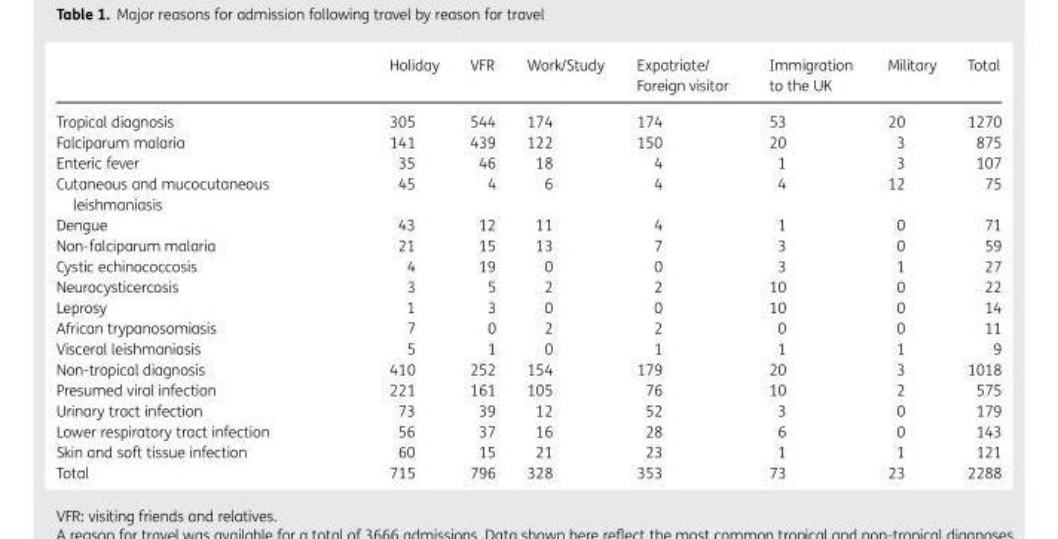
<table><thead><tr><td></td><td>Holiday</td><td>VFR</td><td>Work/Study</td><td>Expatriate/ Foreign visitor</td><td>Immigration to the UK</td><td>Military</td><td>Total</td></tr></thead><tbody><tr><td>Tropical diagnosis</td><td>305</td><td>544</td><td>174</td><td>174</td><td>53</td><td>20</td><td>1270</td></tr><tr><td>Falciparum malaria</td><td>141</td><td>439</td><td>122</td><td>150</td><td>20</td><td>3</td><td>875</td></tr><tr><td>Enteric fever</td><td>35</td><td>46</td><td>18</td><td>4</td><td>1</td><td>3</td><td>107</td></tr><tr><td>Cutaneous and mucocutaneous leishmaniasis</td><td>45</td><td>4</td><td>6</td><td>4</td><td>4</td><td>12</td><td>75</td></tr><tr><td>Dengue</td><td>43</td><td>12</td><td>11</td><td>4</td><td>1</td><td>0</td><td>71</td></tr><tr><td>Non-falciparum malaria</td><td>21</td><td>15</td><td>13</td><td>7</td><td>3</td><td>0</td><td>59</td></tr><tr><td>Cystic echinococcosis</td><td>4</td><td>19</td><td>0</td><td>0</td><td>3</td><td>1</td><td>27</td></tr><tr><td>Neurocysticercosis</td><td>3</td><td>5</td><td>2</td><td>2</td><td>10</td><td>0</td><td>22</td></tr><tr><td>Leprosy</td><td>1</td><td>3</td><td>0</td><td>0</td><td>10</td><td>0</td><td>14</td></tr><tr><td>African trypanosomiasis</td><td>7</td><td>0</td><td>2</td><td>2</td><td>0</td><td>0</td><td>11</td></tr><tr><td>Visceral leishmaniasis</td><td>5</td><td>1</td><td>0</td><td>1</td><td>1</td><td>1</td><td>9</td></tr><tr><td>Non-tropical diagnosis</td><td>410</td><td>252</td><td>154</td><td>179</td><td>20</td><td>3</td><td>1018</td></tr><tr><td>Presumed viral infection</td><td>221</td><td>161</td><td>105</td><td>76</td><td>10</td><td>2</td><td>575</td></tr><tr><td>Urinary tract infection</td><td>73</td><td>39</td><td>12</td><td>52</td><td>3</td><td>0</td><td>179</td></tr><tr><td>Lower respiratory tract infection</td><td>56</td><td>37</td><td>16</td><td>28</td><td>6</td><td>0</td><td>143</td></tr><tr><td>Skin and soft tissue infection</td><td>60</td><td>15</td><td>21</td><td>23</td><td>1</td><td>1</td><td>121</td></tr><tr><td>Total</td><td>715</td><td>796</td><td>328</td><td>353</td><td>73</td><td>23</td><td>2288</td></tr></tbody></table>